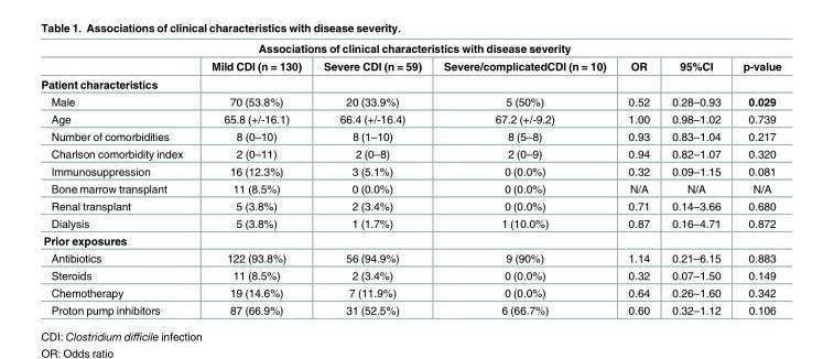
<table><thead><tr><td colspan="7">Associations of clinical characteristics with disease severity</td></tr><tr><td></td><td>Mild CDI (n = 130)</td><td>Severe CDI (n = 59)</td><td>Severe/complicatedCDI (n = 10)</td><td>OR</td><td>95%CI</td><td>p-value</td></tr></thead><tbody><tr><td colspan="7">Patient characteristics</td></tr><tr><td>Male</td><td>70 (53.8%)</td><td>20 (33.9%)</td><td>5 (50%)</td><td>0.52</td><td>0.28–0.93</td><td>0.029</td></tr><tr><td>Age</td><td>65.8 (+/-16.1)</td><td>66.4 (+/-16.4)</td><td>67.2 (+/-9.2)</td><td>1.00</td><td>0.98–1.02</td><td>0.739</td></tr><tr><td>Number of comorbidities</td><td>8 (0–10)</td><td>8 (1–10)</td><td>8 (5–8)</td><td>0.93</td><td>0.83–1.04</td><td>0.217</td></tr><tr><td>Charlson comorbidity index</td><td>2 (0–11)</td><td>2 (0–8)</td><td>2 (0–9)</td><td>0.94</td><td>0.82–1.07</td><td>0.320</td></tr><tr><td>Immunosuppression</td><td>16 (12.3%)</td><td>3 (5.1%)</td><td>0 (0.0%)</td><td>0.32</td><td>0.09–1.15</td><td>0.081</td></tr><tr><td>Bone marrow transplant</td><td>11 (8.5%)</td><td>0 (0.0%)</td><td>0 (0.0%)</td><td>N/A</td><td>N/A</td><td>N/A</td></tr><tr><td>Renal transplant</td><td>5 (3.8%)</td><td>2 (3.4%)</td><td>0 (0.0%)</td><td>0.71</td><td>0.14–3.66</td><td>0.680</td></tr><tr><td>Dialysis</td><td>5 (3.8%)</td><td>1 (1.7%)</td><td>1 (10.0%)</td><td>0.87</td><td>0.16–4.71</td><td>0.872</td></tr><tr><td colspan="7">Prior exposures</td></tr><tr><td>Antibiotics</td><td>122 (93.8%)</td><td>56 (94.9%)</td><td>9 (90%)</td><td>1.14</td><td>0.21–6.15</td><td>0.883</td></tr><tr><td>Steroids</td><td>11 (8.5%)</td><td>2 (3.4%)</td><td>0 (0.0%)</td><td>0.32</td><td>0.07–1.50</td><td>0.149</td></tr><tr><td>Chemotherapy</td><td>19 (14.6%)</td><td>7 (11.9%)</td><td>0 (0.0%)</td><td>0.64</td><td>0.26–1.60</td><td>0.342</td></tr><tr><td>Proton pump inhibitors</td><td>87 (66.9%)</td><td>31 (52.5%)</td><td>6 (66.7%)</td><td>0.60</td><td>0.32–1.12</td><td>0.106</td></tr></tbody></table>